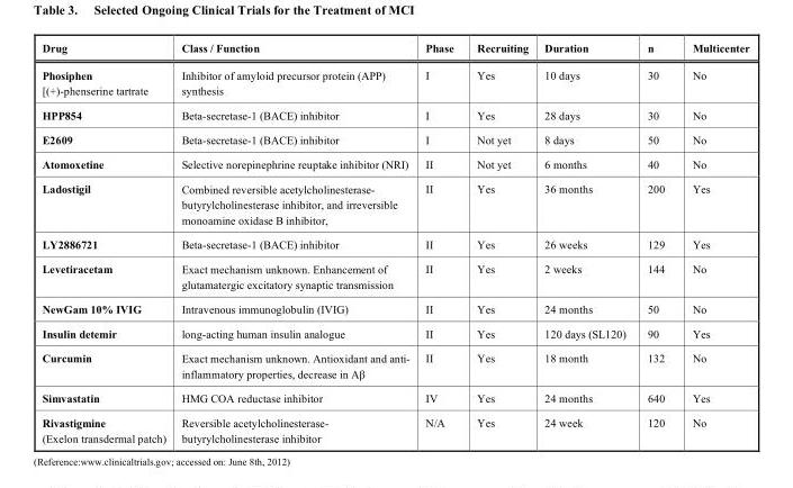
<table><thead><tr><td>Drug</td><td>Class / Function</td><td>Phase</td><td>Recruiting</td><td>Duration</td><td>n</td><td>Multicenter</td></tr></thead><tbody><tr><td>Phosiphen [(+)-phenserine tartrate</td><td>Inhibitor of amyloid precursor protein (APP) synthesis</td><td>I</td><td>Yes</td><td>10 days</td><td>30</td><td>No</td></tr><tr><td>HPP854</td><td>Beta-secretase-1 (BACE) inhibitor</td><td>I</td><td>Yes</td><td>28 days</td><td>30</td><td>No</td></tr><tr><td>E2609</td><td>Beta-secretase-1 (BACE) inhibitor</td><td>I</td><td>Not yet</td><td>8 days</td><td>50</td><td>No</td></tr><tr><td>Atomoxetine</td><td>Selective norepinephrine reuptake inhibitor (NRI)</td><td>II</td><td>Not yet</td><td>6 months</td><td>40</td><td>No</td></tr><tr><td>Ladostigil</td><td>Combined reversible acetylcholinesterase- butyrylcholinesterase inhibitor, and irreversible monoamine oxidase B inhibitor,</td><td>II</td><td>Yes</td><td>36 months</td><td>200</td><td>Yes</td></tr><tr><td>LY2886721</td><td>Beta-secretase-1 (BACE) inhibitor</td><td>II</td><td>Yes</td><td>26 weeks</td><td>129</td><td>Yes</td></tr><tr><td>Levetiracetam</td><td>Exact mechanism unknown. Enhancement of glutamatergic excitatory synaptic transmission</td><td>II</td><td>Yes</td><td>2 weeks</td><td>144</td><td>No</td></tr><tr><td>NewGam 10% IVIG</td><td>Intravenous immunoglobulin (IVIG)</td><td>II</td><td>Yes</td><td>24 months</td><td>50</td><td>No</td></tr><tr><td>Insulin detemir</td><td>long-acting human insulin analogue</td><td>II</td><td>Yes</td><td>120 days (SL120)</td><td>90</td><td>Yes</td></tr><tr><td>Curcumin</td><td>Exact mechanism unknown. Antioxidant and anti- inflammatory properties, decrease in Aβ</td><td>II</td><td>Yes</td><td>18 month</td><td>132</td><td>No</td></tr><tr><td>Simvastatin</td><td>HMG COA reductase inhibitor</td><td>IV</td><td>Yes</td><td>24 months</td><td>640</td><td>Yes</td></tr><tr><td>Rivastigmine (Exelon transdermal patch)</td><td>Reversible acetylcholinesterase- butyrylcholinesterase inhibitor</td><td>N/A</td><td>Yes</td><td>24 week</td><td>120</td><td>No</td></tr></tbody></table>